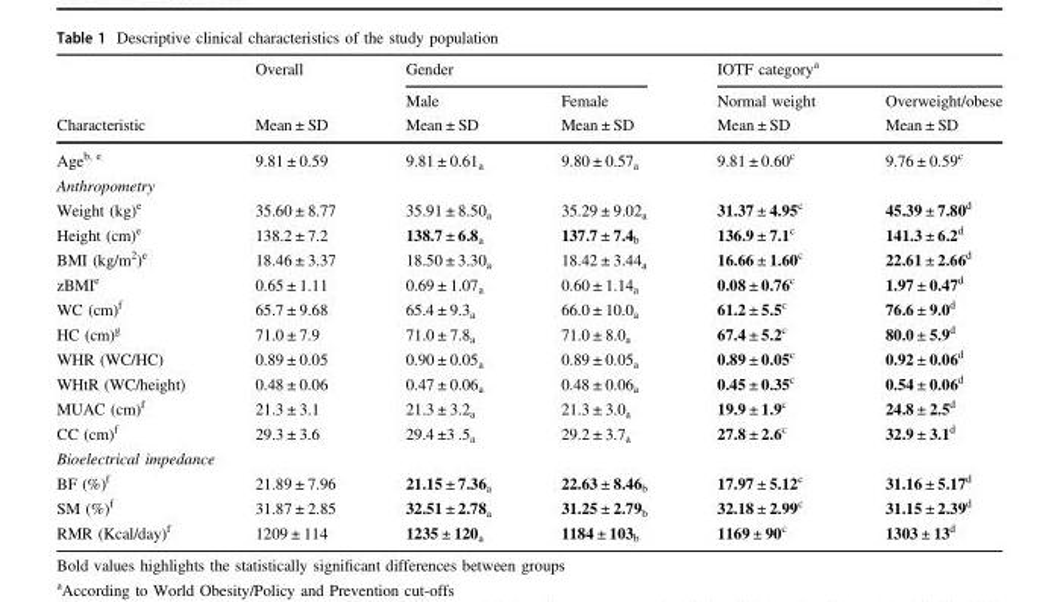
<table><thead><tr><td rowspan="3">Characteristic</td><td rowspan="3">Overall Mean ± SD</td><td colspan="2">Gender</td><td colspan="2">IOTF category<sup>a</sup></td></tr><tr><td rowspan="2">Male Mean ± SD</td><td rowspan="2">Female Mean ± SD</td><td rowspan="2">Normal weight Mean ± SD</td><td rowspan="2">Overweight/obese Mean ± SD</td></tr><tr></tr></thead><tbody><tr><td>Age<sup>b, e</sup></td><td>9.81 ± 0.59</td><td>9.81 ± 0.61<sub>a</sub></td><td>9.80 ± 0.57<sub>a</sub></td><td>9.81 ± 0.60<sup>c</sup></td><td>9.76 ± 0.59<sup>c</sup></td></tr><tr><td colspan="6">Anthropometry</td></tr><tr><td>Weight (kg)<sup>e</sup></td><td>35.60 ± 8.77</td><td>35.91 ± 8.50<sub>a</sub></td><td>35.29 ± 9.02<sub>a</sub></td><td>31.37 ± 4.95<sup>c</sup></td><td>45.39 ± 7.80<sup>d</sup></td></tr><tr><td>Height (cm)<sup>e</sup></td><td>138.2 ± 7.2</td><td>138.7 ± 6.8<sub>a</sub></td><td>137.7 ± 7.4<sub>b</sub></td><td>136.9 ± 7.1<sup>c</sup></td><td>141.3 ± 6.2<sup>d</sup></td></tr><tr><td>BMI (kg/m<sup>2</sup>)<sup>e</sup></td><td>18.46 ± 3.37</td><td>18.50 ± 3.30<sub>a</sub></td><td>18.42 ± 3.44<sub>a</sub></td><td>16.66 ± 1.60<sup>c</sup></td><td>22.61 ± 2.66<sup>d</sup></td></tr><tr><td>zBMI<sup>e</sup></td><td>0.65 ± 1.11</td><td>0.69 ± 1.07<sub>a</sub></td><td>0.60 ± 1.14<sub>a</sub></td><td>0.08 ± 0.76<sup>c</sup></td><td>1.97 ± 0.47<sup>d</sup></td></tr><tr><td>WC (cm)<sup>f</sup></td><td>65.7 ± 9.68</td><td>65.4 ± 9.3<sub>a</sub></td><td>66.0 ± 10.0<sub>a</sub></td><td>61.2 ± 5.5<sup>c</sup></td><td>76.6 ± 9.0<sup>d</sup></td></tr><tr><td>HC (cm)<sup>g</sup></td><td>71.0 ± 7.9</td><td>71.0 ± 7.8<sub>a</sub></td><td>71.0 ± 8.0<sub>a</sub></td><td>67.4 ± 5.2<sup>c</sup></td><td>80.0 ± 5.9<sup>d</sup></td></tr><tr><td>WHR (WC/HC)</td><td>0.89 ± 0.05</td><td>0.90 ± 0.05<sub>a</sub></td><td>0.89 ± 0.05<sub>a</sub></td><td>0.89 ± 0.05<sup>c</sup></td><td>0.92 ± 0.06<sup>d</sup></td></tr><tr><td>WHtR (WC/height)</td><td>0.48 ± 0.06</td><td>0.47 ± 0.06<sub>a</sub></td><td>0.48 ± 0.06<sub>a</sub></td><td>0.45 ± 0.35<sup>c</sup></td><td>0.54 ± 0.06<sup>d</sup></td></tr><tr><td>MUAC (cm)<sup>f</sup></td><td>21.3 ± 3.1</td><td>21.3 ± 3.2<sub>a</sub></td><td>21.3 ± 3.0<sub>a</sub></td><td>19.9 ± 1.9<sup>c</sup></td><td>24.8 ± 2.5<sup>d</sup></td></tr><tr><td>CC (cm)<sup>f</sup></td><td>29.3 ± 3.6</td><td>29.4 ±3 .5<sub>a</sub></td><td>29.2 ± 3.7<sub>a</sub></td><td>27.8 ± 2.6<sup>c</sup></td><td>32.9 ± 3.1<sup>d</sup></td></tr><tr><td colspan="6">Bioelectrical impedance</td></tr><tr><td>BF (%)<sup>f</sup></td><td>21.89 ± 7.96</td><td>21.15 ± 7.36<sub>a</sub></td><td>22.63 ± 8.46<sub>b</sub></td><td>17.97 ± 5.12<sup>c</sup></td><td>31.16 ± 5.17<sup>d</sup></td></tr><tr><td>SM (%)<sup>f</sup></td><td>31.87 ± 2.85</td><td>32.51 ± 2.78<sub>a</sub></td><td>31.25 ± 2.79<sub>b</sub></td><td>32.18 ± 2.99<sup>c</sup></td><td>31.15 ± 2.39<sup>d</sup></td></tr><tr><td>RMR (Kcal/day)<sup>f</sup></td><td>1209 ± 114</td><td>1235 ± 120<sub>a</sub></td><td>1184 ± 103<sub>b</sub></td><td>1169 ± 90<sup>c</sup></td><td>1303 ± 13<sup>d</sup></td></tr></tbody></table>